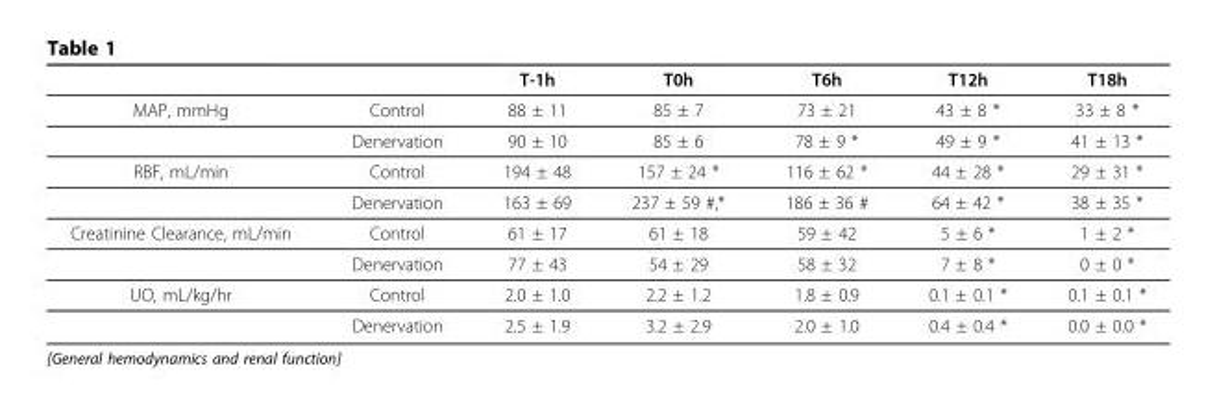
<table><thead><tr><td></td><td></td><td>T-1h</td><td>T0h</td><td>T6h</td><td>T12h</td><td>T18h</td></tr></thead><tbody><tr><td rowspan="2">MAP, mmHg</td><td>Control</td><td>88 ± 11</td><td>85 ± 7</td><td>73 ± 21</td><td>43 ± 8 *</td><td>33 ± 8 *</td></tr><tr><td>Denervation</td><td>90 ± 10</td><td>85 ± 6</td><td>78 ± 9 *</td><td>49 ± 9 *</td><td>41 ± 13 *</td></tr><tr><td rowspan="2">RBF, mL/min</td><td>Control</td><td>194 ± 48</td><td>157 ± 24 *</td><td>116 ± 62 *</td><td>44 ± 28 *</td><td>29 ± 31 *</td></tr><tr><td>Denervation</td><td>163 ± 69</td><td>237 ± 59 #,*</td><td>186 ± 36 #</td><td>64 ± 42 *</td><td>38 ± 35 *</td></tr><tr><td rowspan="2">Creatinine Clearance, mL/min</td><td>Control</td><td>61 ± 17</td><td>61 ± 18</td><td>59 ± 42</td><td>5 ± 6 *</td><td>1 ± 2 *</td></tr><tr><td>Denervation</td><td>77 ± 43</td><td>54 ± 29</td><td>58 ± 32</td><td>7 ± 8 *</td><td>0 ± 0 *</td></tr><tr><td rowspan="2">UO, mL/kg/hr</td><td>Control</td><td>2.0 ± 1.0</td><td>2.2 ± 1.2</td><td>1.8 ± 0.9</td><td>0.1 ± 0.1 *</td><td>0.1 ± 0.1 *</td></tr><tr><td>Denervation</td><td>2.5 ± 1.9</td><td>3.2 ± 2.9</td><td>2.0 ± 1.0</td><td>0.4 ± 0.4 *</td><td>0.0 ± 0.0 *</td></tr></tbody></table>